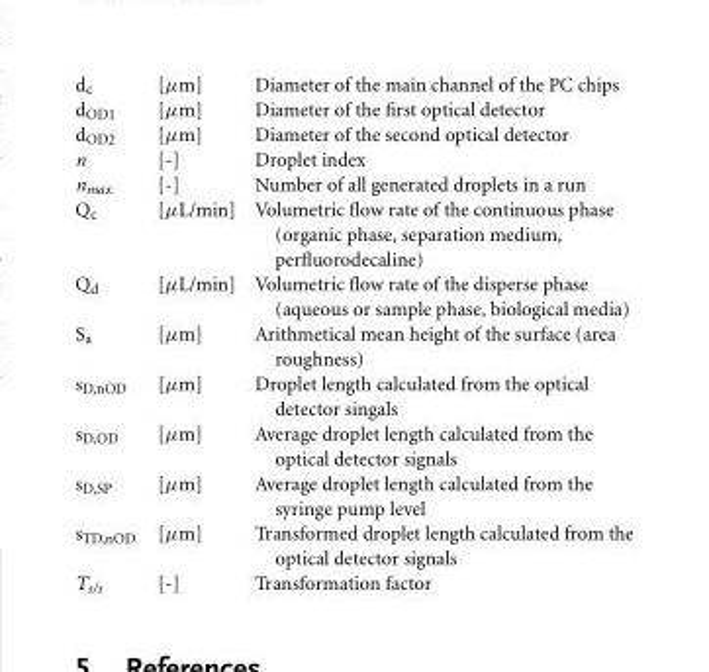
<table><tbody><tr><td>d<sub>c</sub></td><td>[μm]</td><td>Diameter of the main channel of the PC chips</td></tr><tr><td>d<sub>OD1</sub></td><td>[μm]</td><td>Diameter of the first optical detector</td></tr><tr><td>d<sub>OD2</sub></td><td>[μm]</td><td>Diameter of the second optical detector</td></tr><tr><td>n</td><td>[-]</td><td>Droplet index</td></tr><tr><td>n<sub>max</sub></td><td>[-]</td><td>Number of all generated droplets in a run</td></tr><tr><td>Q<sub>c</sub></td><td>[μL/min]</td><td>Volumetric flow rate of the continuous phase (organic phase, separation medium, perfluorodecaline)</td></tr><tr><td>Q<sub>d</sub></td><td>[μL/min]</td><td>Volumetric flow rate of the disperse phase (aqueous or sample phase, biological media)</td></tr><tr><td>S<sub>a</sub></td><td>[μm]</td><td>Arithmetical mean height of the surface (area roughness)</td></tr><tr><td>s<sub>D,nOD</sub></td><td>[μm]</td><td>Droplet length calculated from the optical detector singals</td></tr><tr><td>s<sub>D,OD</sub></td><td>[μm]</td><td>Average droplet length calculated from the optical detector signals</td></tr><tr><td>s<sub>D,SP</sub></td><td>[μm]</td><td>Average droplet length calculated from the syringe pump level</td></tr><tr><td>s<sub>TD,nOD</sub></td><td>[μm]</td><td>Transformed droplet length calculated from the optical detector signals</td></tr><tr><td>T<sub>s/s</sub></td><td>[-]</td><td>Transformation factor</td></tr></tbody></table>